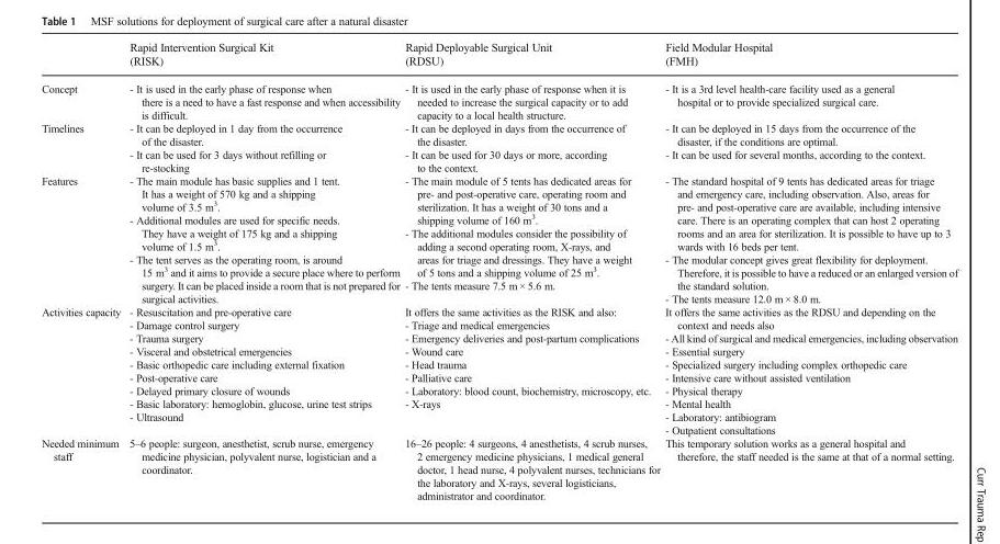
<table><thead><tr><td></td><td>Rapid Intervention Surgical Kit (RISK)</td><td>Rapid Deployable Surgical Unit (RDSU)</td><td>Field Modular Hospital (FMH)</td></tr></thead><tbody><tr><td>Concept</td><td>- It is used in the early phase of response when there is a need to have a fast response and when accessibility is difficult.</td><td>- It is used in the early phase of response when it is needed to increase the surgical capacity or to add capacity to a local health structure.</td><td>- It is a 3rd level health-care facility used as a general hospital or to provide specialized surgical care.</td></tr><tr><td>Timelines</td><td>- It can be deployed in 1 day from the occurrence of the disaster. - It can be used for 3 days without refilling or re-stocking</td><td>- It can be deployed in days from the occurrence of the disaster. - It can be used for 30 days or more, according to the context.</td><td>- It can be deployed in 15 days from the occurrence of the disaster, if the conditions are optimal. - It can be used for several months, according to the context.</td></tr><tr><td>Features</td><td>- The main module has basic supplies and 1 tent. It has a weight of 570 kg and a shipping volume of 3.5 m<sup>3</sup>. - Additional modules are used for specific needs. They have a weight of 175 kg and a shipping volume of 1.5 m<sup>3</sup>. - The tent serves as the operating room, is around 15 m<sup>3</sup> and it aims to provide a secure place where to perform surgery. It can be placed inside a room that is not prepared for surgical activities.</td><td>- The main module of 5 tents has dedicated areas for pre- and post-operative care, operating room and sterilization. It has a weight of 30 tons and a shipping volume of 160 m<sup>3</sup>. - The additional modules consider the possibility of adding a second operating room, X-rays, and areas for triage and dressings. They have a weight of 5 tons and a shipping volume of 25 m<sup>3</sup>. - The tents measure 7.5 m × 5.6 m.</td><td>- The standard hospital of 9 tents has dedicated areas for triage and emergency care, including observation. Also, areas for pre- and post-operative care are available, including intensive care. There is an operating complex that can host 2 operating rooms and an area for sterilization. It is possible to have up to 3 wards with 16 beds per tent. - The modular concept gives great flexibility for deployment. Therefore, it is possible to have a reduced or an enlarged version of the standard solution. - The tents measure 12.0 m × 8.0 m.</td></tr><tr><td>Activities capacity</td><td>- Resuscitation and pre-operative care - Damage control surgery - Trauma surgery - Visceral and obstetrical emergencies - Basic orthopedic care including external fixation - Post-operative care - Delayed primary closure of wounds - Basic laboratory: hemoglobin, glucose, urine test strips - Ultrasound</td><td>It offers the same activities as the RISK and also: - Triage and medical emergencies - Emergency deliveries and post-partum complications - Wound care - Head trauma - Palliative care - Laboratory: blood count, biochemistry, microscopy, etc. - X-rays</td><td>It offers the same activities as the RDSU and depending on the context and needs also - All kind of surgical and medical emergencies, including observation - Essential surgery - Specialized surgery including complex orthopedic care - Intensive care without assisted ventilation - Physical therapy - Mental health - Laboratory: antibiogram - Outpatient consultations</td></tr><tr><td>Needed minimum staff</td><td>5–6 people: surgeon, anesthetist, scrub nurse, emergency medicine physician, polyvalent nurse, logistician and a coordinator.</td><td>16–26 people: 4 surgeons, 4 anesthetists, 4 scrub nurses, 2 emergency medicine physicians, 1 medical general doctor, 1 head nurse, 4 polyvalent nurses, technicians for the laboratory and X-rays, several logisticians, administrator and coordinator.</td><td>This temporary solution works as a general hospital and therefore, the staff needed is the same at that of a normal setting.</td></tr></tbody></table>